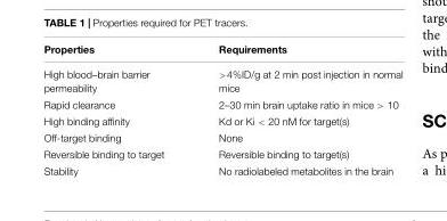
<table><thead><tr><td>Properties</td><td>Requirements</td></tr></thead><tbody><tr><td>High blood–brain barrier permeability</td><td>&gt;4%ID/g at 2 min post injection in normal mice</td></tr><tr><td>Rapid clearance</td><td>2–30 min brain uptake ratio in mice &gt; 10</td></tr><tr><td>High binding affinity</td><td>Kd or Ki &lt; 20 nM for target(s)</td></tr><tr><td>Off-target binding</td><td>None</td></tr><tr><td>Reversible binding to target</td><td>Reversible binding to target(s)</td></tr><tr><td>Stability</td><td>No radiolabeled metabolites in the brain</td></tr></tbody></table>